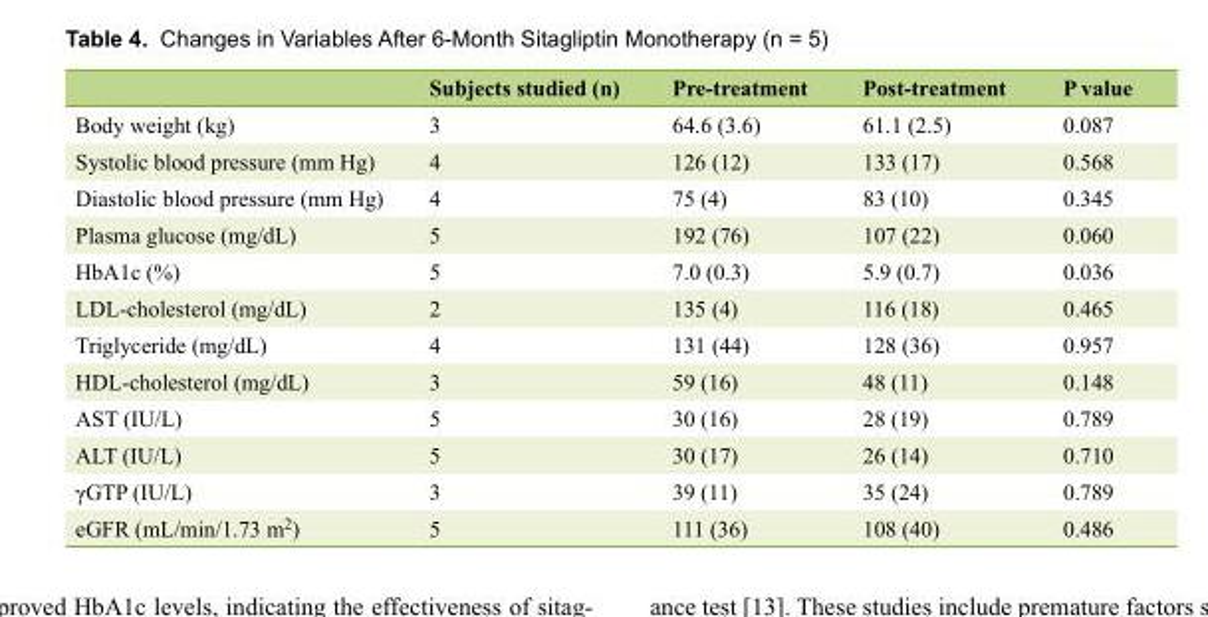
<table><thead><tr><td></td><td>Subjects studied (n)</td><td>Pre-treatment</td><td>Post-treatment</td><td>P value</td></tr></thead><tbody><tr><td>Body weight (kg)</td><td>3</td><td>64.6 (3.6)</td><td>61.1 (2.5)</td><td>0.087</td></tr><tr><td>Systolic blood pressure (mm Hg)</td><td>4</td><td>126 (12)</td><td>133 (17)</td><td>0.568</td></tr><tr><td>Diastolic blood pressure (mm Hg)</td><td>4</td><td>75 (4)</td><td>83 (10)</td><td>0.345</td></tr><tr><td>Plasma glucose (mg/dL)</td><td>5</td><td>192 (76)</td><td>107 (22)</td><td>0.060</td></tr><tr><td>HbA1c (%)</td><td>5</td><td>7.0 (0.3)</td><td>5.9 (0.7)</td><td>0.036</td></tr><tr><td>LDL-cholesterol (mg/dL)</td><td>2</td><td>135 (4)</td><td>116 (18)</td><td>0.465</td></tr><tr><td>Triglyceride (mg/dL)</td><td>4</td><td>131 (44)</td><td>128 (36)</td><td>0.957</td></tr><tr><td>HDL-cholesterol (mg/dL)</td><td>3</td><td>59 (16)</td><td>48 (11)</td><td>0.148</td></tr><tr><td>AST (IU/L)</td><td>5</td><td>30 (16)</td><td>28 (19)</td><td>0.789</td></tr><tr><td>ALT (IU/L)</td><td>5</td><td>30 (17)</td><td>26 (14)</td><td>0.710</td></tr><tr><td>γGTP (IU/L)</td><td>3</td><td>39 (11)</td><td>35 (24)</td><td>0.789</td></tr><tr><td>eGFR (mL/min/1.73 m<sup>2</sup>)</td><td>5</td><td>111 (36)</td><td>108 (40)</td><td>0.486</td></tr></tbody></table>